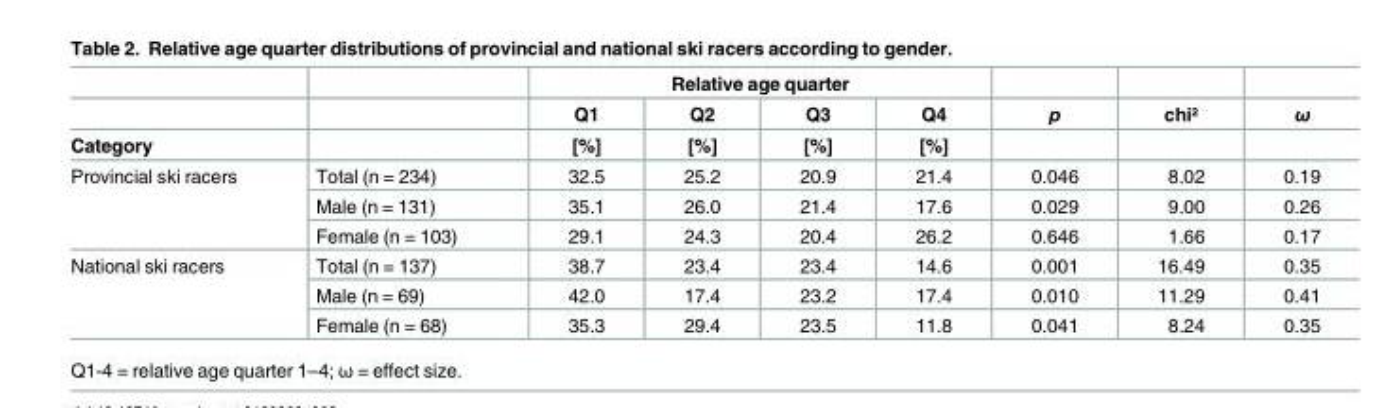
<table><thead><tr><td rowspan="3">Category</td><td rowspan="3"></td><td colspan="4">Relative age quarter</td><td rowspan="3">p</td><td rowspan="3">chi²</td><td rowspan="3">ω</td></tr><tr><td rowspan="2">Q1 [%]</td><td rowspan="2">Q2 [%]</td><td rowspan="2">Q3 [%]</td><td rowspan="2">Q4 [%]</td></tr><tr></tr></thead><tbody><tr><td rowspan="3">Provincial ski racers</td><td>Total (n = 234)</td><td>32.5</td><td>25.2</td><td>20.9</td><td>21.4</td><td>0.046</td><td>8.02</td><td>0.19</td></tr><tr><td>Male (n = 131)</td><td>35.1</td><td>26.0</td><td>21.4</td><td>17.6</td><td>0.029</td><td>9.00</td><td>0.26</td></tr><tr><td>Female (n = 103)</td><td>29.1</td><td>24.3</td><td>20.4</td><td>26.2</td><td>0.646</td><td>1.66</td><td>0.17</td></tr><tr><td rowspan="3">National ski racers</td><td>Total (n = 137)</td><td>38.7</td><td>23.4</td><td>23.4</td><td>14.6</td><td>0.001</td><td>16.49</td><td>0.35</td></tr><tr><td>Male (n = 69)</td><td>42.0</td><td>17.4</td><td>23.2</td><td>17.4</td><td>0.010</td><td>11.29</td><td>0.41</td></tr><tr><td>Female (n = 68)</td><td>35.3</td><td>29.4</td><td>23.5</td><td>11.8</td><td>0.041</td><td>8.24</td><td>0.35</td></tr></tbody></table>